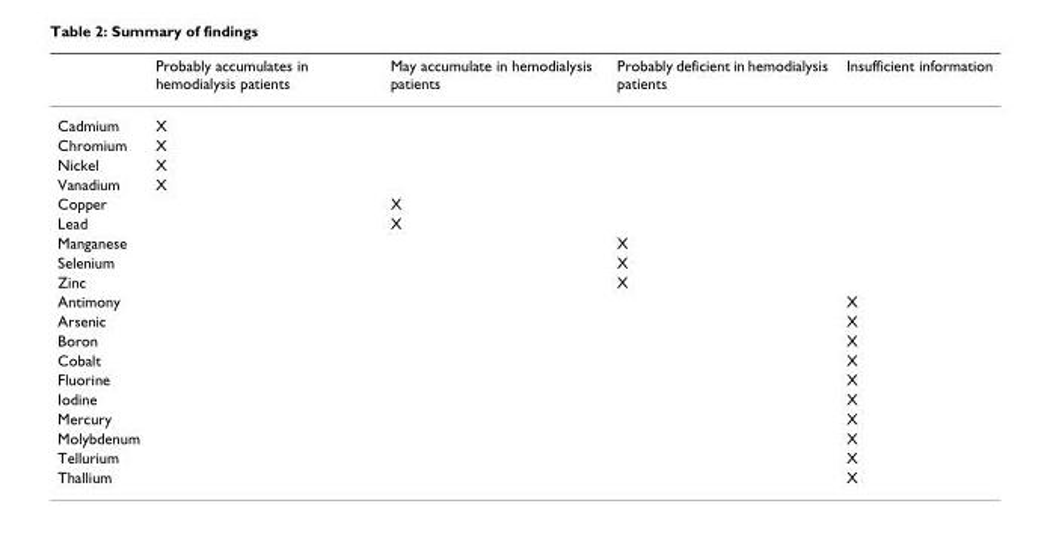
<table><thead><tr><td></td><td>Probably accumulates in hemodialysis patients</td><td>May accumulate in hemodialysis patients</td><td>Probably deficient in hemodialysis patients</td><td>Insufficient information</td></tr></thead><tbody><tr><td>Cadmium</td><td>X</td><td></td><td></td><td></td></tr><tr><td>Chromium</td><td>X</td><td></td><td></td><td></td></tr><tr><td>Nickel</td><td>X</td><td></td><td></td><td></td></tr><tr><td>Vanadium</td><td>X</td><td></td><td></td><td></td></tr><tr><td>Copper</td><td></td><td>X</td><td></td><td></td></tr><tr><td>Lead</td><td></td><td>X</td><td></td><td></td></tr><tr><td>Manganese</td><td></td><td></td><td>X</td><td></td></tr><tr><td>Selenium</td><td></td><td></td><td>X</td><td></td></tr><tr><td>Zinc</td><td></td><td></td><td>X</td><td></td></tr><tr><td>Antimony</td><td></td><td></td><td></td><td>X</td></tr><tr><td>Arsenic</td><td></td><td></td><td></td><td>X</td></tr><tr><td>Boron</td><td></td><td></td><td></td><td>X</td></tr><tr><td>Cobalt</td><td></td><td></td><td></td><td>X</td></tr><tr><td>Fluorine</td><td></td><td></td><td></td><td>X</td></tr><tr><td>Iodine</td><td></td><td></td><td></td><td>X</td></tr><tr><td>Mercury</td><td></td><td></td><td></td><td>X</td></tr><tr><td>Molybdenum</td><td></td><td></td><td></td><td>X</td></tr><tr><td>Tellurium</td><td></td><td></td><td></td><td>X</td></tr><tr><td>Thallium</td><td></td><td></td><td></td><td>X</td></tr></tbody></table>